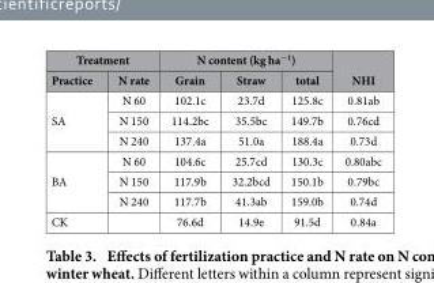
<table><thead><tr><td colspan="2">Treatment</td><td colspan="3">N content (kg ha<sup>−1</sup>)</td><td rowspan="2">NHI</td></tr><tr><td>Practice</td><td>N rate</td><td>Grain</td><td>Straw</td><td>total</td></tr></thead><tbody><tr><td rowspan="3">SA</td><td>N 60</td><td>102.1c</td><td>23.7d</td><td>125.8c</td><td>0.81ab</td></tr><tr><td>N 150</td><td>114.2bc</td><td>35.5bc</td><td>149.7b</td><td>0.76cd</td></tr><tr><td>N 240</td><td>137.4a</td><td>51.0a</td><td>188.4a</td><td>0.73d</td></tr><tr><td rowspan="3">BA</td><td>N 60</td><td>104.6c</td><td>25.7cd</td><td>130.3c</td><td>0.80abc</td></tr><tr><td>N 150</td><td>117.9b</td><td>32.2bcd</td><td>150.1b</td><td>0.79bc</td></tr><tr><td>N 240</td><td>117.7b</td><td>41.3ab</td><td>159.0b</td><td>0.74d</td></tr><tr><td>CK</td><td></td><td>76.6d</td><td>14.9e</td><td>91.5d</td><td>0.84a</td></tr></tbody></table>